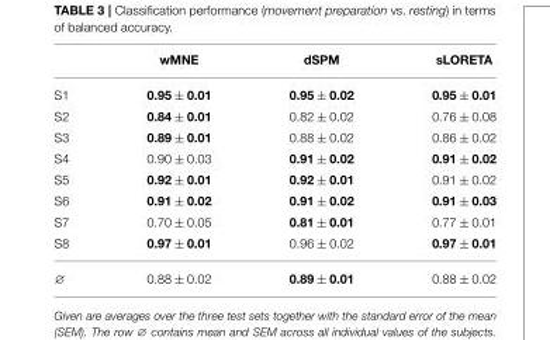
<table><thead><tr><td></td><td>wMNE</td><td>dSPM</td><td>sLORETA</td></tr></thead><tbody><tr><td>S1</td><td>0.95 ± 0.01</td><td>0.95 ± 0.02</td><td>0.95 ± 0.01</td></tr><tr><td>S2</td><td>0.84 ± 0.01</td><td>0.82 ± 0.02</td><td>0.76 ± 0.08</td></tr><tr><td>S3</td><td>0.89 ± 0.01</td><td>0.88 ± 0.02</td><td>0.86 ± 0.02</td></tr><tr><td>S4</td><td>0.90 ± 0.03</td><td>0.91 ± 0.02</td><td>0.91 ± 0.02</td></tr><tr><td>S5</td><td>0.92 ± 0.01</td><td>0.92 ± 0.01</td><td>0.91 ± 0.02</td></tr><tr><td>S6</td><td>0.91 ± 0.02</td><td>0.91 ± 0.02</td><td>0.91 ± 0.03</td></tr><tr><td>S7</td><td>0.70 ± 0.05</td><td>0.81 ± 0.01</td><td>0.77 ± 0.01</td></tr><tr><td>S8</td><td>0.97 ± 0.01</td><td>0.96 ± 0.02</td><td>0.97 ± 0.01</td></tr><tr><td>∅</td><td>0.88 ± 0.02</td><td>0.89 ± 0.01</td><td>0.88 ± 0.02</td></tr></tbody></table>